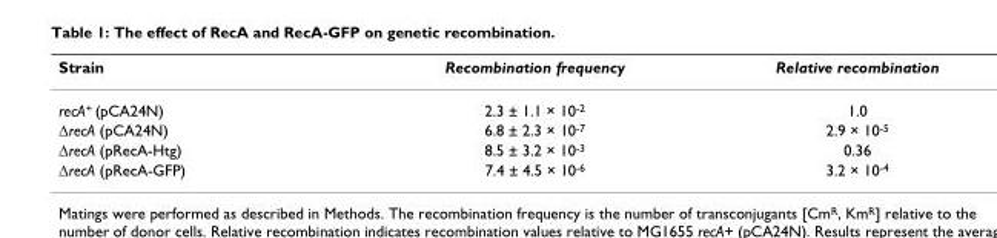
<table><thead><tr><td>Strain</td><td>Recombination frequency</td><td>Relative recombination</td></tr></thead><tbody><tr><td>recA+ (pCA24N)</td><td>2.3 ± 1.1 × 10-2</td><td>1.0</td></tr><tr><td>ΔrecA (pCA24N)</td><td>6.8 ± 2.3 × 10-7</td><td>2.9 × 10-5</td></tr><tr><td>ΔrecA (pRecA-Htg)</td><td>8.5 ± 3.2 × 10-3</td><td>0.36</td></tr><tr><td>ΔrecA (pRecA-GFP)</td><td>7.4 ± 4.5 × 10-6</td><td>3.2 × 10-4</td></tr></tbody></table>